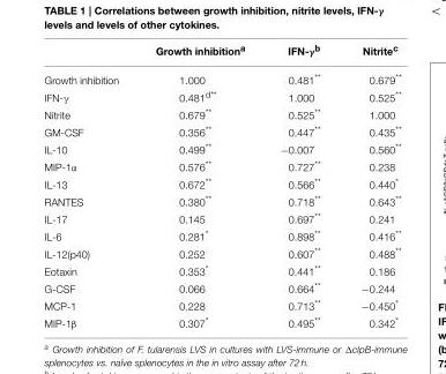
<table><thead><tr><td></td><td>Growth inhibition<sup>a</sup></td><td>IFN-γ<sup>b</sup></td><td>Nitrite<sup>c</sup></td></tr></thead><tbody><tr><td>Growth inhibition</td><td>1.000</td><td>0.481**</td><td>0.679**</td></tr><tr><td>IFN-γ</td><td>0.481<sup>d**</sup></td><td>1.000</td><td>0.525**</td></tr><tr><td>Nitrite</td><td>0.679**</td><td>0.525**</td><td>1.000</td></tr><tr><td>GM-CSF</td><td>0.356**</td><td>0.447**</td><td>0.435**</td></tr><tr><td>IL-10</td><td>0.499**</td><td>−0.007</td><td>0.560**</td></tr><tr><td>MIP-1α</td><td>0.576**</td><td>0.727**</td><td>0.238</td></tr><tr><td>IL-13</td><td>0.672**</td><td>0.566**</td><td>0.440*</td></tr><tr><td>RANTES</td><td>0.380**</td><td>0.718**</td><td>0.643**</td></tr><tr><td>IL-17</td><td>0.145</td><td>0.697**</td><td>0.241</td></tr><tr><td>IL-6</td><td>0.281*</td><td>0.898**</td><td>0.416**</td></tr><tr><td>IL-12(p40)</td><td>0.252</td><td>0.607**</td><td>0.488**</td></tr><tr><td>Eotaxin</td><td>0.353*</td><td>0.441**</td><td>0.186</td></tr><tr><td>G-CSF</td><td>0.066</td><td>0.664**</td><td>−0.244</td></tr><tr><td>MCP-1</td><td>0.228</td><td>0.713**</td><td>−0.450*</td></tr><tr><td>MIP-1β</td><td>0.307*</td><td>0.495**</td><td>0.342*</td></tr></tbody></table>